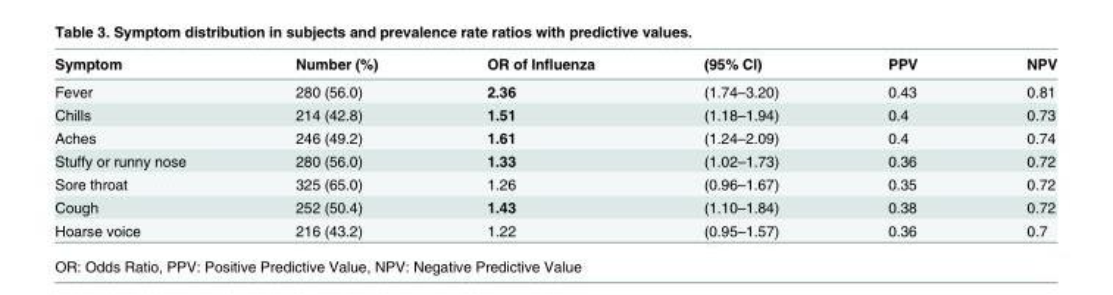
<table><thead><tr><td>Symptom</td><td>Number (%)</td><td>OR of Influenza</td><td>(95% CI)</td><td>PPV</td><td>NPV</td></tr></thead><tbody><tr><td>Fever</td><td>280 (56.0)</td><td>2.36</td><td>(1.74–3.20)</td><td>0.43</td><td>0.81</td></tr><tr><td>Chills</td><td>214 (42.8)</td><td>1.51</td><td>(1.18–1.94)</td><td>0.4</td><td>0.73</td></tr><tr><td>Aches</td><td>246 (49.2)</td><td>1.61</td><td>(1.24–2.09)</td><td>0.4</td><td>0.74</td></tr><tr><td>Stuffy or runny nose</td><td>280 (56.0)</td><td>1.33</td><td>(1.02–1.73)</td><td>0.36</td><td>0.72</td></tr><tr><td>Sore throat</td><td>325 (65.0)</td><td>1.26</td><td>(0.96–1.67)</td><td>0.35</td><td>0.72</td></tr><tr><td>Cough</td><td>252 (50.4)</td><td>1.43</td><td>(1.10–1.84)</td><td>0.38</td><td>0.72</td></tr><tr><td>Hoarse voice</td><td>216 (43.2)</td><td>1.22</td><td>(0.95–1.57)</td><td>0.36</td><td>0.7</td></tr></tbody></table>